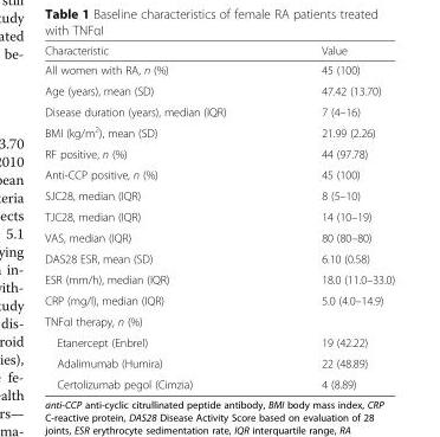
<table><thead><tr><td>Characteristic</td><td>Value</td></tr></thead><tbody><tr><td>All women with RA, n (%)</td><td>45 (100)</td></tr><tr><td>Age (years), mean (SD)</td><td>47.42 (13.70)</td></tr><tr><td>Disease duration (years), median (IQR)</td><td>7 (4–16)</td></tr><tr><td>BMI (kg/m<sup>2</sup>), mean (SD)</td><td>21.99 (2.26)</td></tr><tr><td>RF positive, n (%)</td><td>44 (97.78)</td></tr><tr><td>Anti-CCP positive, n (%)</td><td>45 (100)</td></tr><tr><td>SJC28, median (IQR)</td><td>8 (5–10)</td></tr><tr><td>TJC28, median (IQR)</td><td>14 (10–19)</td></tr><tr><td>VAS, median (IQR)</td><td>80 (80–80)</td></tr><tr><td>DAS28 ESR, mean (SD)</td><td>6.10 (0.58)</td></tr><tr><td>ESR (mm/h), median (IQR)</td><td>18.0 (11.0–33.0)</td></tr><tr><td>CRP (mg/l), median (IQR)</td><td>5.0 (4.0–14.9)</td></tr><tr><td colspan="2">TNFαI therapy, n (%)</td></tr><tr><td>Etanercept (Enbrel)</td><td>19 (42.22)</td></tr><tr><td>Adalimumab (Humira)</td><td>22 (48.89)</td></tr><tr><td>Certolizumab pegol (Cimzia)</td><td>4 (8.89)</td></tr></tbody></table>